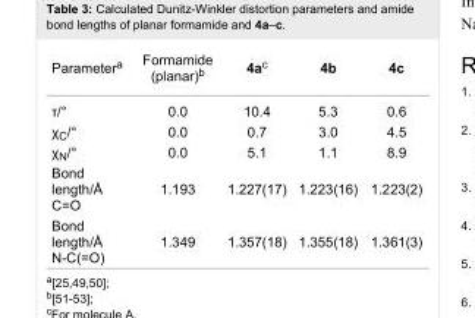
<table><tbody><tr><td>Parameter<sup>a</sup></td><td>Formamide (planar)<sup>b</sup></td><td>4a<sup>c</sup></td><td>4b</td><td>4c</td></tr><tr><td>τ/°</td><td>0.0</td><td>10.4</td><td>5.3</td><td>0.6</td></tr><tr><td>χ<sub>C</sub>/°</td><td>0.0</td><td>0.7</td><td>3.0</td><td>4.5</td></tr><tr><td>χ<sub>N</sub>/°</td><td>0.0</td><td>5.1</td><td>1.1</td><td>8.9</td></tr><tr><td>Bond length/Å C=O</td><td>1.193</td><td>1.227(17)</td><td>1.223(16)</td><td>1.223(2)</td></tr><tr><td>Bond length/Å N-C(=O)</td><td>1.349</td><td>1.357(18)</td><td>1.355(18)</td><td>1.361(3)</td></tr></tbody></table>